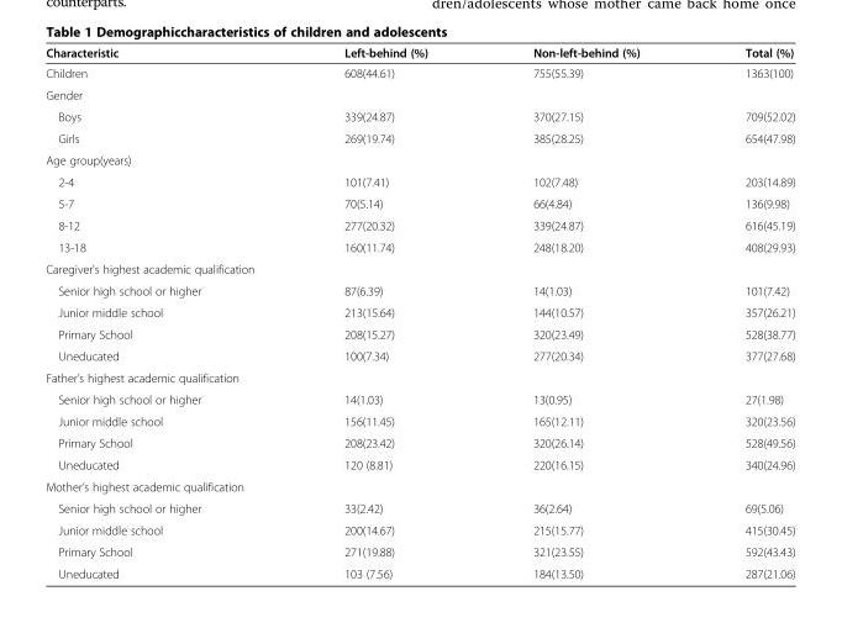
<table><thead><tr><td>Characteristic</td><td>Left-behind (%)</td><td>Non-left-behind (%)</td><td>Total (%)</td></tr></thead><tbody><tr><td>Children</td><td>608(44.61)</td><td>755(55.39)</td><td>1363(100)</td></tr><tr><td colspan="4">Gender</td></tr><tr><td>Boys</td><td>339(24.87)</td><td>370(27.15)</td><td>709(52.02)</td></tr><tr><td>Girls</td><td>269(19.74)</td><td>385(28.25)</td><td>654(47.98)</td></tr><tr><td colspan="4">Age group(years)</td></tr><tr><td>2-4</td><td>101(7.41)</td><td>102(7.48)</td><td>203(14.89)</td></tr><tr><td>5-7</td><td>70(5.14)</td><td>66(4.84)</td><td>136(9.98)</td></tr><tr><td>8-12</td><td>277(20.32)</td><td>339(24.87)</td><td>616(45.19)</td></tr><tr><td>13-18</td><td>160(11.74)</td><td>248(18.20)</td><td>408(29.93)</td></tr><tr><td colspan="4">Caregiver&#x27;s highest academic qualification</td></tr><tr><td>Senior high school or higher</td><td>87(6.39)</td><td>14(1.03)</td><td>101(7.42)</td></tr><tr><td>Junior middle school</td><td>213(15.64)</td><td>144(10.57)</td><td>357(26.21)</td></tr><tr><td>Primary School</td><td>208(15.27)</td><td>320(23.49)</td><td>528(38.77)</td></tr><tr><td>Uneducated</td><td>100(7.34)</td><td>277(20.34)</td><td>377(27.68)</td></tr><tr><td colspan="4">Father’s highest academic qualification</td></tr><tr><td>Senior high school or higher</td><td>14(1.03)</td><td>13(0.95)</td><td>27(1.98)</td></tr><tr><td>Junior middle school</td><td>156(11.45)</td><td>165(12.11)</td><td>320(23.56)</td></tr><tr><td>Primary School</td><td>208(23.42)</td><td>320(26.14)</td><td>528(49.56)</td></tr><tr><td>Uneducated</td><td>120 (8.81)</td><td>220(16.15)</td><td>340(24.96)</td></tr><tr><td colspan="4">Mother’s highest academic qualification</td></tr><tr><td>Senior high school or higher</td><td>33(2.42)</td><td>36(2.64)</td><td>69(5.06)</td></tr><tr><td>Junior middle school</td><td>200(14.67)</td><td>215(15.77)</td><td>415(30.45)</td></tr><tr><td>Primary School</td><td>271(19.88)</td><td>321(23.55)</td><td>592(43.43)</td></tr><tr><td>Uneducated</td><td>103 (7.56)</td><td>184(13.50)</td><td>287(21.06)</td></tr></tbody></table>